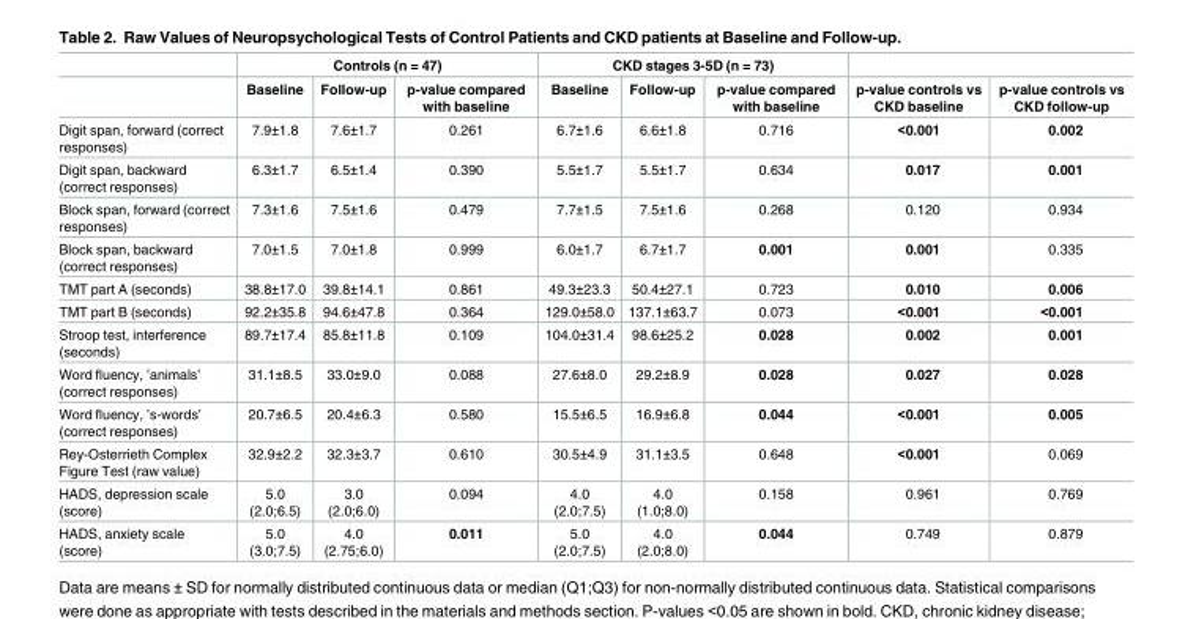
<table><thead><tr><td rowspan="2"></td><td colspan="3">Controls (n = 47)</td><td colspan="3">CKD stages 3-5D (n = 73)</td><td rowspan="2">p-value controls vs CKD baseline</td><td rowspan="2">p-value controls vs CKD follow-up</td></tr><tr><td>Baseline</td><td>Follow-up</td><td>p-value compared with baseline</td><td>Baseline</td><td>Follow-up</td><td>p-value compared with baseline</td></tr></thead><tbody><tr><td>Digit span, forward (correct responses)</td><td>7.9±1.8</td><td>7.6±1.7</td><td>0.261</td><td>6.7±1.6</td><td>6.6±1.8</td><td>0.716</td><td>&lt;0.001</td><td>0.002</td></tr><tr><td>Digit span, backward (correct responses)</td><td>6.3±1.7</td><td>6.5±1.4</td><td>0.390</td><td>5.5±1.7</td><td>5.5±1.7</td><td>0.634</td><td>0.017</td><td>0.001</td></tr><tr><td>Block span, forward (correct responses)</td><td>7.3±1.6</td><td>7.5±1.6</td><td>0.479</td><td>7.7±1.5</td><td>7.5±1.6</td><td>0.268</td><td>0.120</td><td>0.934</td></tr><tr><td>Block span, backward (correct responses)</td><td>7.0±1.5</td><td>7.0±1.8</td><td>0.999</td><td>6.0±1.7</td><td>6.7±1.7</td><td>0.001</td><td>0.001</td><td>0.335</td></tr><tr><td>TMT part A (seconds)</td><td>38.8±17.0</td><td>39.8±14.1</td><td>0.861</td><td>49.3±23.3</td><td>50.4±27.1</td><td>0.723</td><td>0.010</td><td>0.006</td></tr><tr><td>TMT part B (seconds)</td><td>92.2±35.8</td><td>94.6±47.8</td><td>0.364</td><td>129.0±58.0</td><td>137.1±63.7</td><td>0.073</td><td>&lt;0.001</td><td>&lt;0.001</td></tr><tr><td>Stroop test, interference (seconds)</td><td>89.7±17.4</td><td>85.8±11.8</td><td>0.109</td><td>104.0±31.4</td><td>98.6±25.2</td><td>0.028</td><td>0.002</td><td>0.001</td></tr><tr><td>Word fluency, ’animals’ (correct responses)</td><td>31.1±8.5</td><td>33.0±9.0</td><td>0.088</td><td>27.6±8.0</td><td>29.2±8.9</td><td>0.028</td><td>0.027</td><td>0.028</td></tr><tr><td>Word fluency, ’s-words’ (correct responses)</td><td>20.7±6.5</td><td>20.4±6.3</td><td>0.580</td><td>15.5±6.5</td><td>16.9±6.8</td><td>0.044</td><td>&lt;0.001</td><td>0.005</td></tr><tr><td>Rey-Osterrieth Complex Figure Test (raw value)</td><td>32.9±2.2</td><td>32.3±3.7</td><td>0.610</td><td>30.5±4.9</td><td>31.1±3.5</td><td>0.648</td><td>&lt;0.001</td><td>0.069</td></tr><tr><td>HADS, depression scale (score)</td><td>5.0 (2.0;6.5)</td><td>3.0 (2.0;6.0)</td><td>0.094</td><td>4.0 (2.0;7.5)</td><td>4.0 (1.0;8.0)</td><td>0.158</td><td>0.961</td><td>0.769</td></tr><tr><td>HADS, anxiety scale (score)</td><td>5.0 (3.0;7.5)</td><td>4.0 (2.75;6.0)</td><td>0.011</td><td>5.0 (2.0;7.5)</td><td>4.0 (2.0;8.0)</td><td>0.044</td><td>0.749</td><td>0.879</td></tr></tbody></table>